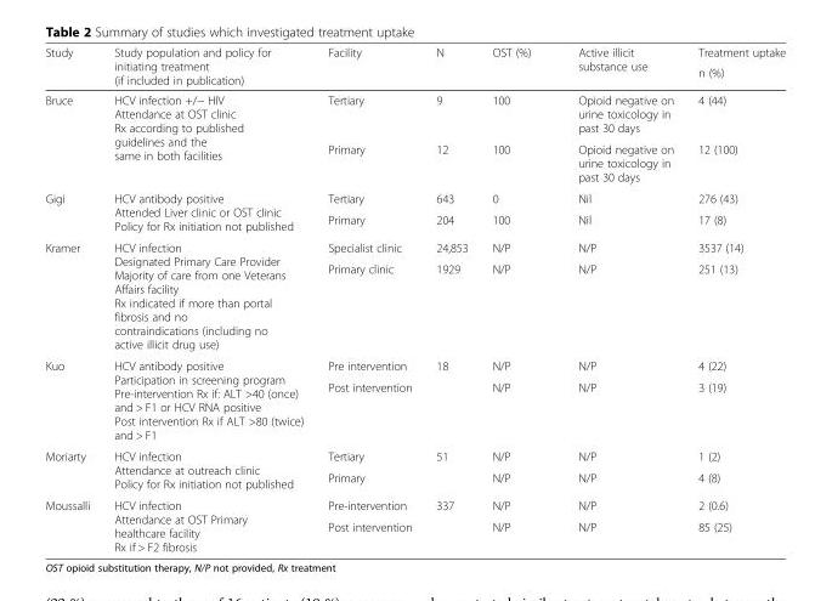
<table><thead><tr><td rowspan="2">Study</td><td rowspan="2">Study population and policy for initiating treatment (if included in publication)</td><td rowspan="2">Facility</td><td rowspan="2">N</td><td rowspan="2">OST (%)</td><td rowspan="2">Active illicit substance use</td><td rowspan="2">Treatment uptake n (%)</td></tr><tr></tr></thead><tbody><tr><td rowspan="2">Bruce</td><td rowspan="2">HCV infection +/− HIV Attendance at OST clinic Rx according to published guidelines and the same in both facilities</td><td>Tertiary</td><td>9</td><td>100</td><td>Opioid negative on urine toxicology in past 30 days</td><td>4 (44)</td></tr><tr><td>Primary</td><td>12</td><td>100</td><td>Opioid negative on urine toxicology in past 30 days</td><td>12 (100)</td></tr><tr><td rowspan="2">Gigi</td><td rowspan="2">HCV antibody positive Attended Liver clinic or OST clinic Policy for Rx initiation not published</td><td>Tertiary</td><td>643</td><td>0</td><td>Nil</td><td>276 (43)</td></tr><tr><td>Primary</td><td>204</td><td>100</td><td>Nil</td><td>17 (8)</td></tr><tr><td rowspan="2">Kramer</td><td rowspan="2">HCV infection Designated Primary Care Provider Majority of care from one Veterans Affairs facility Rx indicated if more than portal fibrosis and no contraindications (including no active illicit drug use)</td><td>Specialist clinic</td><td>24,853</td><td>N/P</td><td>N/P</td><td>3537 (14)</td></tr><tr><td>Primary clinic</td><td>1929</td><td>N/P</td><td>N/P</td><td>251 (13)</td></tr><tr><td rowspan="2">Kuo</td><td rowspan="2">HCV antibody positive Participation in screening program Pre-intervention Rx if: ALT &gt;40 (once) and &gt; F1 or HCV RNA positive Post intervention Rx if ALT &gt;80 (twice) and &gt; F1</td><td>Pre intervention</td><td rowspan="2">18</td><td>N/P</td><td>N/P</td><td>4 (22)</td></tr><tr><td>Post intervention</td><td>N/P</td><td>N/P</td><td>3 (19)</td></tr><tr><td rowspan="2">Moriarty</td><td rowspan="2">HCV infection Attendance at outreach clinic Policy for Rx initiation not published</td><td>Tertiary</td><td rowspan="2">51</td><td>N/P</td><td>N/P</td><td>1 (2)</td></tr><tr><td>Primary</td><td>N/P</td><td>N/P</td><td>4 (8)</td></tr><tr><td rowspan="2">Moussalli</td><td rowspan="2">HCV infection Attendance at OST Primary healthcare facility Rx if &gt; F2 fibrosis</td><td>Pre-intervention</td><td rowspan="2">337</td><td>N/P</td><td>N/P</td><td>2 (0.6)</td></tr><tr><td>Post intervention</td><td>N/P</td><td>N/P</td><td>85 (25)</td></tr></tbody></table>